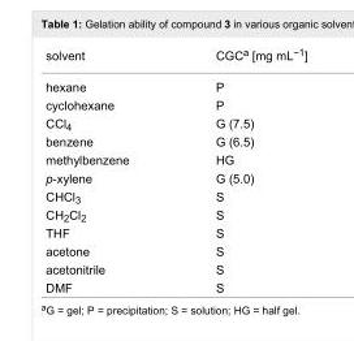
<table><tbody><tr><td>solvent</td><td>CGC<sup>a</sup> [mg mL<sup>−1</sup>]</td></tr><tr><td>hexane</td><td>P</td></tr><tr><td>cyclohexane</td><td>P</td></tr><tr><td>CCl<sub>4</sub></td><td>G (7.5)</td></tr><tr><td>benzene</td><td>G (6.5)</td></tr><tr><td>methylbenzene</td><td>HG</td></tr><tr><td>p-xylene</td><td>G (5.0)</td></tr><tr><td>CHCl<sub>3</sub></td><td>S</td></tr><tr><td>CH<sub>2</sub>Cl<sub>2</sub></td><td>S</td></tr><tr><td>THF</td><td>S</td></tr><tr><td>acetone</td><td>S</td></tr><tr><td>acetonitrile</td><td>S</td></tr><tr><td>DMF</td><td>S</td></tr></tbody></table>